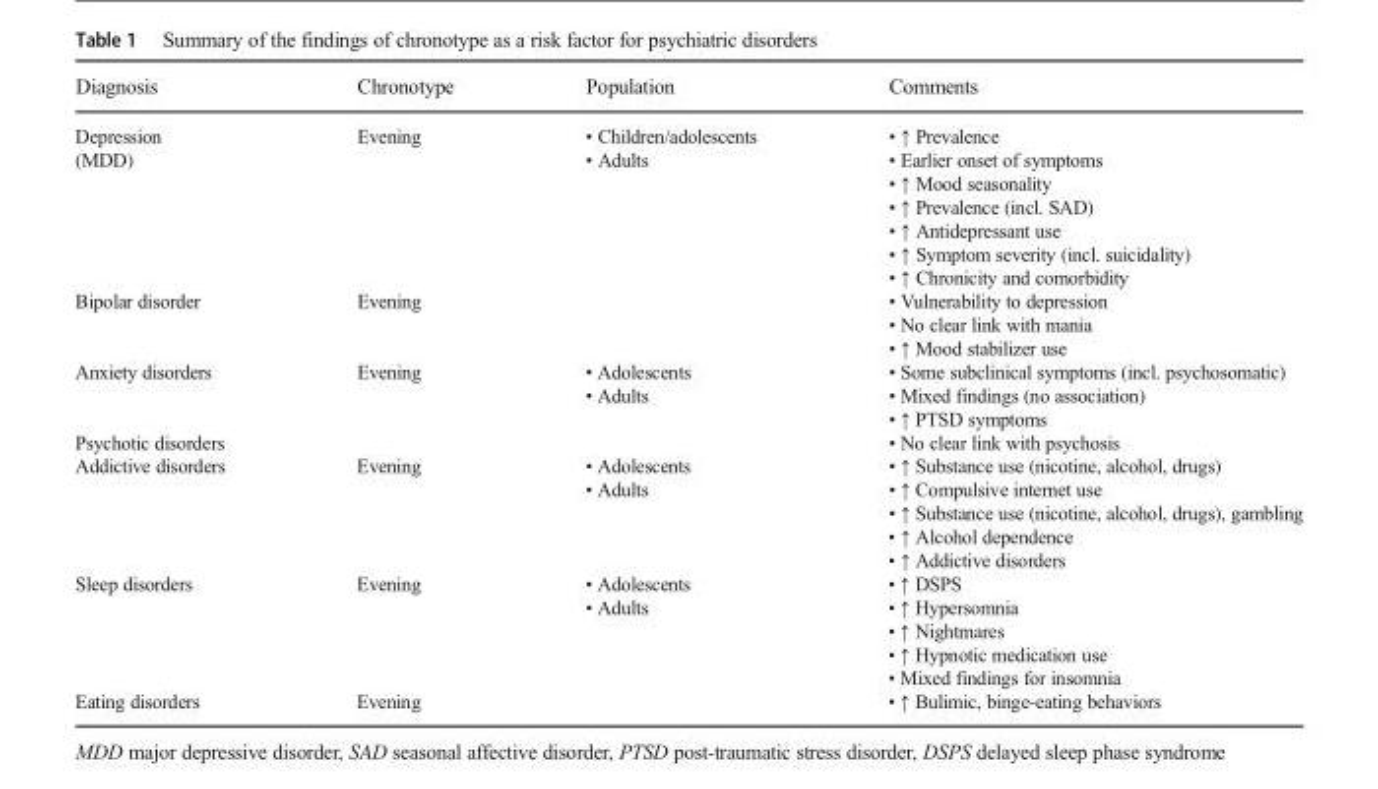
<table><thead><tr><td>Diagnosis</td><td>Chronotype</td><td>Population</td><td>Comments</td></tr></thead><tbody><tr><td>Depression (MDD)</td><td>Evening</td><td>• Children/adolescents • Adults</td><td>• ↑ Prevalence • Earlier onset of symptoms • ↑ Mood seasonality • ↑ Prevalence (incl. SAD) • ↑ Antidepressant use • ↑ Symptom severity (incl. suicidality) • ↑ Chronicity and comorbidity</td></tr><tr><td>Bipolar disorder</td><td>Evening</td><td></td><td>• Vulnerability to depression • No clear link with mania • ↑ Mood stabilizer use</td></tr><tr><td>Anxiety disorders</td><td>Evening</td><td>• Adolescents • Adults</td><td>• Some subclinical symptoms (incl. psychosomatic) • Mixed findings (no association) • ↑ PTSD symptoms</td></tr><tr><td>Psychotic disorders</td><td></td><td></td><td>• No clear link with psychosis</td></tr><tr><td>Addictive disorders</td><td>Evening</td><td>• Adolescents • Adults</td><td>• ↑ Substance use (nicotine, alcohol, drugs) • ↑ Compulsive internet use • ↑ Substance use (nicotine, alcohol, drugs), gambling • ↑ Alcohol dependence • ↑ Addictive disorders</td></tr><tr><td>Sleep disorders</td><td>Evening</td><td>• Adolescents • Adults</td><td>• ↑ DSPS • ↑ Hypersomnia • ↑ Nightmares • ↑ Hypnotic medication use • Mixed findings for insomnia</td></tr><tr><td>Eating disorders</td><td>Evening</td><td></td><td>• ↑ Bulimic, binge-eating behaviors</td></tr></tbody></table>